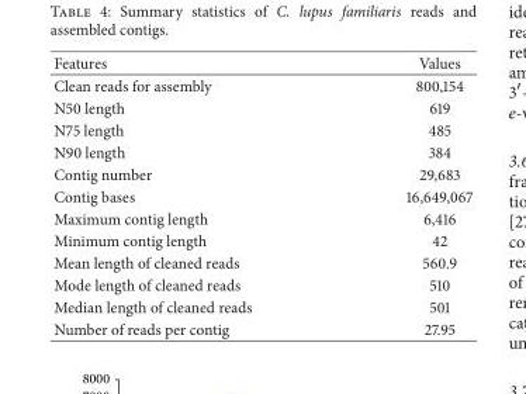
<table><thead><tr><td>Features</td><td>Values</td></tr></thead><tbody><tr><td>Clean reads for assembly</td><td>800,154</td></tr><tr><td>N50 length</td><td>619</td></tr><tr><td>N75 length</td><td>485</td></tr><tr><td>N90 length</td><td>384</td></tr><tr><td>Contig number</td><td>29,683</td></tr><tr><td>Contig bases</td><td>16,649,067</td></tr><tr><td>Maximum contig length</td><td>6,416</td></tr><tr><td>Minimum contig length</td><td>42</td></tr><tr><td>Mean length of cleaned reads</td><td>560.9</td></tr><tr><td>Mode length of cleaned reads</td><td>510</td></tr><tr><td>Median length of cleaned reads</td><td>501</td></tr><tr><td>Number of reads per contig</td><td>27.95</td></tr></tbody></table>